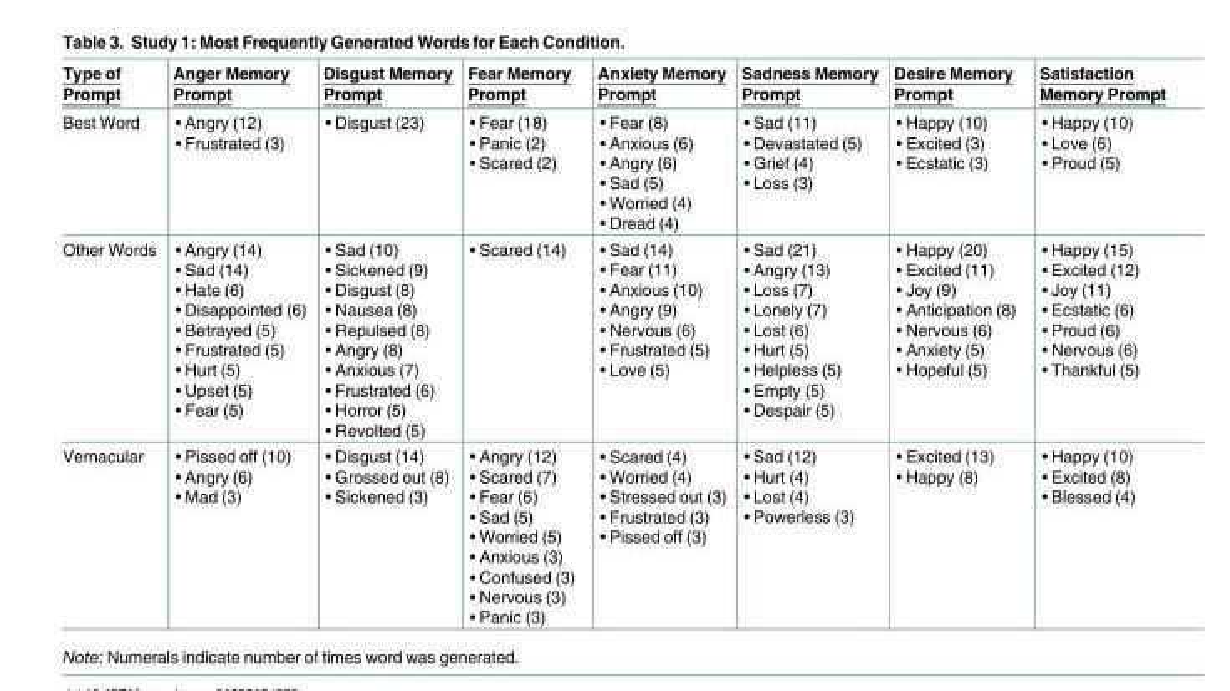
<table><thead><tr><td>Type of Prompt</td><td>Anger Memory Prompt</td><td>Disgust Memory Prompt</td><td>Fear Memory Prompt</td><td>Anxiety Memory Prompt</td><td>Sadness Memory Prompt</td><td>Desire Memory Prompt</td><td>Satisfaction Memory Prompt</td></tr></thead><tbody><tr><td>Best Word</td><td>• Angry (12) • Frustrated (3)</td><td>• Disgust (23)</td><td>• Fear (18) • Panic (2) • Scared (2)</td><td>• Fear (8) • Anxious (6) • Angry (6) • Sad (5) • Worried (4) • Dread (4)</td><td>• Sad (11) • Devastated (5) • Grief (4) • Loss (3)</td><td>• Happy (10) • Excited (3) • Ecstatic (3)</td><td>• Happy (10) • Love (6) • Proud (5)</td></tr><tr><td>Other Words</td><td>• Angry (14) • Sad (14) • Hate (6) • Disappointed (6) • Betrayed (5) • Frustrated (5) • Hurt (5) • Upset (5) • Fear (5)</td><td>• Sad (10) • Sickened (9) • Disgust (8) • Nausea (8) • Repulsed (8) • Angry (8) • Anxious (7) • Frustrated (6) • Horror (5) • Revolted (5)</td><td>• Scared (14)</td><td>• Sad (14) • Fear (11) • Anxious (10) • Angry (9) • Nervous (6) • Frustrated (5) • Love (5)</td><td>• Sad (21) • Angry (13) • Loss (7) • Lonely (7) • Lost (6) • Hurt (5) • Helpless (5) • Empty (5) • Despair (5)</td><td>• Happy (20) • Excited (11) • Joy (9) • Anticipation (8) • Nervous (6) • Anxiety (5) • Hopeful (5)</td><td>• Happy (15) • Excited (12) • Joy (11) • Ecstatic (6) • Proud (6) • Nervous (6) • Thankful (5)</td></tr><tr><td>Vernacular</td><td>• Pissed off (10) • Angry (6) • Mad (3)</td><td>• Disgust (14) • Grossed out (8) • Sickened (3)</td><td>• Angry (12) • Scared (7) • Fear (6) • Sad (5) • Worried (5) • Anxious (3) • Confused (3) • Nervous (3) • Panic (3)</td><td>• Scared (4) • Worried (4) • Stressed out (3) • Frustrated (3) • Pissed off (3)</td><td>• Sad (12) • Hurt (4) • Lost (4) • Powerless (3)</td><td>• Excited (13) • Happy (8)</td><td>• Happy (10) • Excited (8) • Blessed (4)</td></tr></tbody></table>